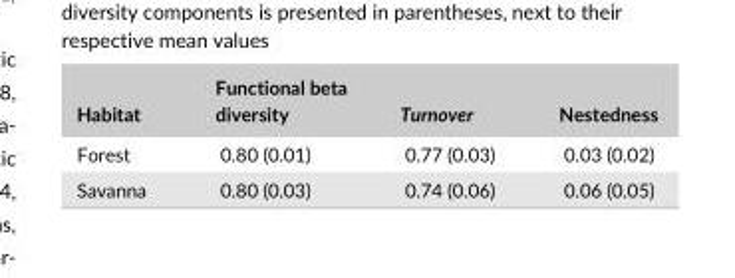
<table><thead><tr><td>Habitat</td><td>Functional beta diversity</td><td>Turnover</td><td>Nestedness</td></tr></thead><tbody><tr><td>Forest</td><td>0.80 (0.01)</td><td>0.77 (0.03)</td><td>0.03 (0.02)</td></tr><tr><td>Savanna</td><td>0.80 (0.03)</td><td>0.74 (0.06)</td><td>0.06 (0.05)</td></tr></tbody></table>